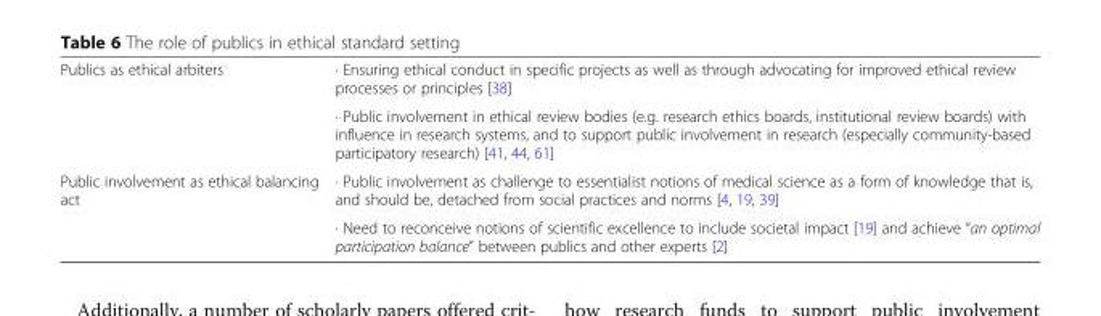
<table><tbody><tr><td rowspan="2">Publics as ethical arbiters</td><td>∙ Ensuring ethical conduct in specific projects as well as through advocating for improved ethical review processes or principles [38]</td></tr><tr><td>∙ Public involvement in ethical review bodies (e.g. research ethics boards, institutional review boards) with influence in research systems, and to support public involvement in research (especially community-based participatory research) [41, 44, 61]</td></tr><tr><td rowspan="2">Public involvement as ethical balancing act</td><td>∙ Public involvement as challenge to essentialist notions of medical science as a form of knowledge that is, and should be, detached from social practices and norms [4, 19, 39]</td></tr><tr><td>∙ Need to reconceive notions of scientific excellence to include societal impact [19] and achieve “an optimal participation balance” between publics and other experts [2]</td></tr></tbody></table>